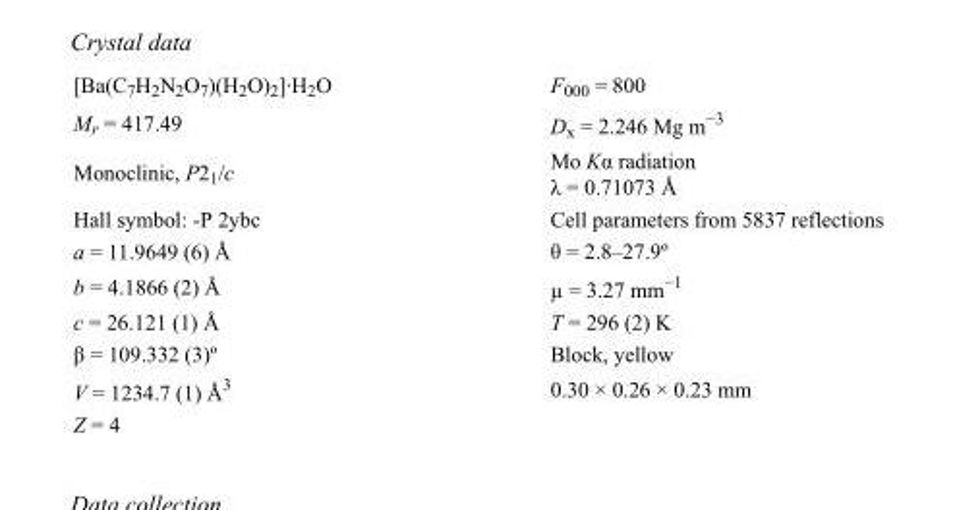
<table><tbody><tr><td>[Ba(C<sub>7</sub>H<sub>2</sub>N<sub>2</sub>O<sub>7</sub>)(H<sub>2</sub>O)<sub>2</sub>]·H<sub>2</sub>O</td><td>F<sub>000</sub> = 800</td></tr><tr><td>M<sub>r</sub> = 417.49</td><td>D<sub>x</sub> = 2.246 Mg m<sup>−3</sup></td></tr><tr><td>Monoclinic, P2<sub>1</sub>/c</td><td>Mo Kα radiation λ = 0.71073 Å</td></tr><tr><td>Hall symbol: -P 2ybc</td><td>Cell parameters from 5837 reflections</td></tr><tr><td>a = 11.9649 (6) Å</td><td>θ = 2.8–27.9º</td></tr><tr><td>b = 4.1866 (2) Å</td><td>µ = 3.27 mm<sup>−1</sup></td></tr><tr><td>c = 26.121 (1) Å</td><td>T = 296 (2) K</td></tr><tr><td>β = 109.332 (3)º</td><td>Block, yellow</td></tr><tr><td>V = 1234.7 (1) Å<sup>3</sup></td><td>0.30 × 0.26 × 0.23 mm</td></tr><tr><td>Z = 4</td><td></td></tr></tbody></table>